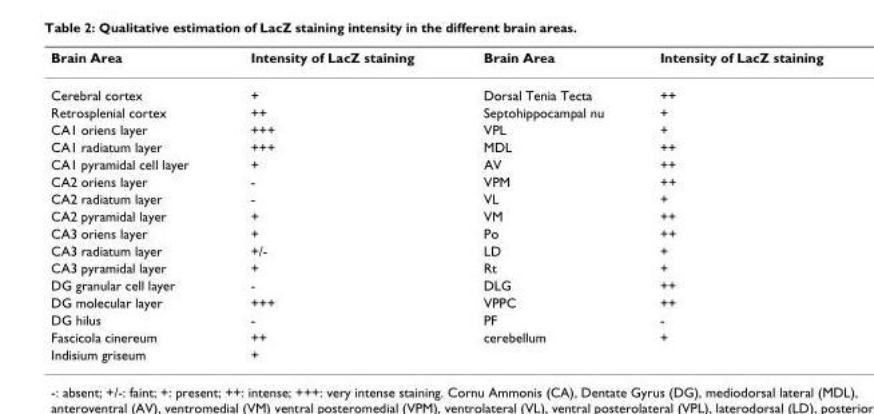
<table><thead><tr><td>Brain Area</td><td>Intensity of LacZ staining</td><td>Brain Area</td><td>Intensity of LacZ staining</td></tr></thead><tbody><tr><td>Cerebral cortex</td><td>+</td><td>Dorsal Tenia Tecta</td><td>++</td></tr><tr><td>Retrosplenial cortex</td><td>++</td><td>Septohippocampal nu</td><td>+</td></tr><tr><td>CA1 oriens layer</td><td>+++</td><td>VPL</td><td>+</td></tr><tr><td>CA1 radiatum layer</td><td>+++</td><td>MDL</td><td>++</td></tr><tr><td>CA1 pyramidal cell layer</td><td>+</td><td>AV</td><td>++</td></tr><tr><td>CA2 oriens layer</td><td>-</td><td>VPM</td><td>++</td></tr><tr><td>CA2 radiatum layer</td><td>-</td><td>VL</td><td>+</td></tr><tr><td>CA2 pyramidal layer</td><td>+</td><td>VM</td><td>++</td></tr><tr><td>CA3 oriens layer</td><td>+</td><td>Po</td><td>++</td></tr><tr><td>CA3 radiatum layer</td><td>+/-</td><td>LD</td><td>+</td></tr><tr><td>CA3 pyramidal layer</td><td>+</td><td>Rt</td><td>+</td></tr><tr><td>DG granular cell layer</td><td>-</td><td>DLG</td><td>++</td></tr><tr><td>DG molecular layer</td><td>+++</td><td>VPPC</td><td>++</td></tr><tr><td>DG hilus</td><td>-</td><td>PF</td><td>-</td></tr><tr><td>Fascicola cinereum</td><td>++</td><td>cerebellum</td><td>+</td></tr><tr><td>Indisium griseum</td><td>+</td><td></td><td></td></tr></tbody></table>